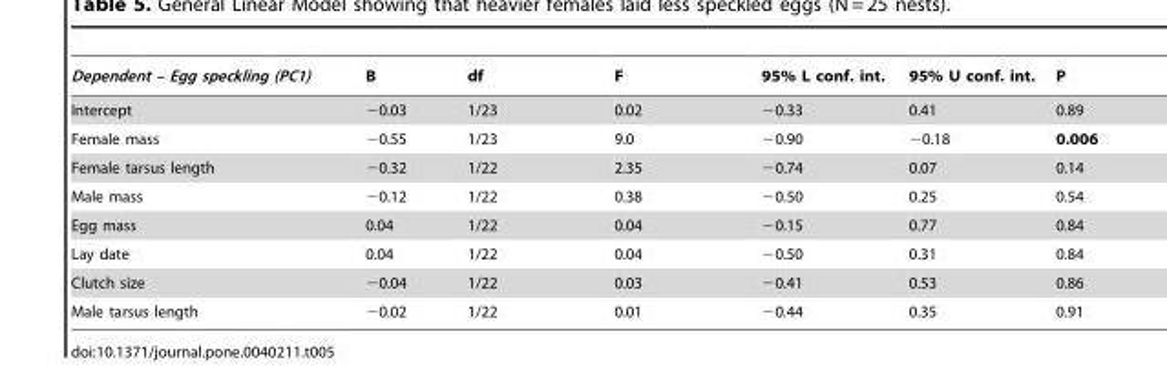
<table><thead><tr><td>Dependent – Egg speckling (PC1)</td><td>B</td><td>df</td><td>F</td><td>95% L conf. int.</td><td>95% U conf. int.</td><td>P</td></tr></thead><tbody><tr><td>Intercept</td><td>−0.03</td><td>1/23</td><td>0.02</td><td>−0.33</td><td>0.41</td><td>0.89</td></tr><tr><td>Female mass</td><td>−0.55</td><td>1/23</td><td>9.0</td><td>−0.90</td><td>−0.18</td><td>0.006</td></tr><tr><td>Female tarsus length</td><td>−0.32</td><td>1/22</td><td>2.35</td><td>−0.74</td><td>0.07</td><td>0.14</td></tr><tr><td>Male mass</td><td>−0.12</td><td>1/22</td><td>0.38</td><td>−0.50</td><td>0.25</td><td>0.54</td></tr><tr><td>Egg mass</td><td>0.04</td><td>1/22</td><td>0.04</td><td>−0.15</td><td>0.77</td><td>0.84</td></tr><tr><td>Lay date</td><td>0.04</td><td>1/22</td><td>0.04</td><td>−0.50</td><td>0.31</td><td>0.84</td></tr><tr><td>Clutch size</td><td>−0.04</td><td>1/22</td><td>0.03</td><td>−0.41</td><td>0.53</td><td>0.86</td></tr><tr><td>Male tarsus length</td><td>−0.02</td><td>1/22</td><td>0.01</td><td>−0.44</td><td>0.35</td><td>0.91</td></tr></tbody></table>